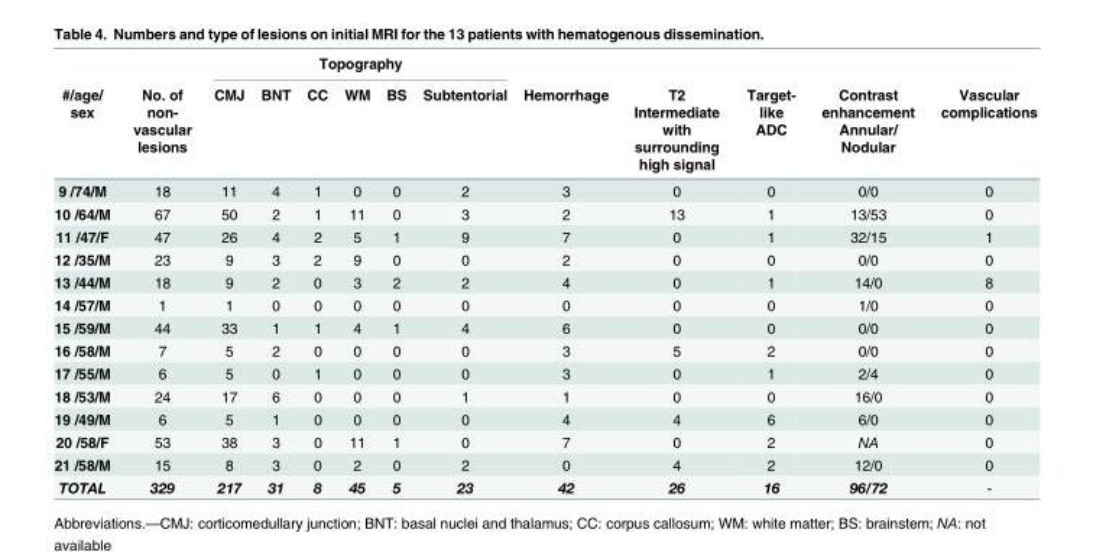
<table><thead><tr><td rowspan="2">#/age/ sex</td><td rowspan="2">No. of non- vascular lesions</td><td colspan="6">Topography</td><td rowspan="2">Hemorrhage</td><td rowspan="2">T2 Intermediate with surrounding high signal</td><td rowspan="2">Target- like ADC</td><td rowspan="2">Contrast enhancement Annular/ Nodular</td><td rowspan="2">Vascular complications</td></tr><tr><td>CMJ</td><td>BNT</td><td>CC</td><td>WM</td><td>BS</td><td>Subtentorial</td></tr></thead><tbody><tr><td>9 /74/M</td><td>18</td><td>11</td><td>4</td><td>1</td><td>0</td><td>0</td><td>2</td><td>3</td><td>0</td><td>0</td><td>0/0</td><td>0</td></tr><tr><td>10 /64/M</td><td>67</td><td>50</td><td>2</td><td>1</td><td>11</td><td>0</td><td>3</td><td>2</td><td>13</td><td>1</td><td>13/53</td><td>0</td></tr><tr><td>11 /47/F</td><td>47</td><td>26</td><td>4</td><td>2</td><td>5</td><td>1</td><td>9</td><td>7</td><td>0</td><td>1</td><td>32/15</td><td>1</td></tr><tr><td>12 /35/M</td><td>23</td><td>9</td><td>3</td><td>2</td><td>9</td><td>0</td><td>0</td><td>2</td><td>0</td><td>0</td><td>0/0</td><td>0</td></tr><tr><td>13 /44/M</td><td>18</td><td>9</td><td>2</td><td>0</td><td>3</td><td>2</td><td>2</td><td>4</td><td>0</td><td>1</td><td>14/0</td><td>8</td></tr><tr><td>14 /57/M</td><td>1</td><td>1</td><td>0</td><td>0</td><td>0</td><td>0</td><td>0</td><td>0</td><td>0</td><td>0</td><td>1/0</td><td>0</td></tr><tr><td>15 /59/M</td><td>44</td><td>33</td><td>1</td><td>1</td><td>4</td><td>1</td><td>4</td><td>6</td><td>0</td><td>0</td><td>0/0</td><td>0</td></tr><tr><td>16 /58/M</td><td>7</td><td>5</td><td>2</td><td>0</td><td>0</td><td>0</td><td>0</td><td>3</td><td>5</td><td>2</td><td>0/0</td><td>0</td></tr><tr><td>17 /55/M</td><td>6</td><td>5</td><td>0</td><td>1</td><td>0</td><td>0</td><td>0</td><td>3</td><td>0</td><td>1</td><td>2/4</td><td>0</td></tr><tr><td>18 /53/M</td><td>24</td><td>17</td><td>6</td><td>0</td><td>0</td><td>0</td><td>1</td><td>1</td><td>0</td><td>0</td><td>16/0</td><td>0</td></tr><tr><td>19 /49/M</td><td>6</td><td>5</td><td>1</td><td>0</td><td>0</td><td>0</td><td>0</td><td>4</td><td>4</td><td>6</td><td>6/0</td><td>0</td></tr><tr><td>20 /58/F</td><td>53</td><td>38</td><td>3</td><td>0</td><td>11</td><td>1</td><td>0</td><td>7</td><td>0</td><td>2</td><td>NA</td><td>0</td></tr><tr><td>21 /58/M</td><td>15</td><td>8</td><td>3</td><td>0</td><td>2</td><td>0</td><td>2</td><td>0</td><td>4</td><td>2</td><td>12/0</td><td>0</td></tr><tr><td>TOTAL</td><td>329</td><td>217</td><td>31</td><td>8</td><td>45</td><td>5</td><td>23</td><td>42</td><td>26</td><td>16</td><td>96/72</td><td>-</td></tr></tbody></table>